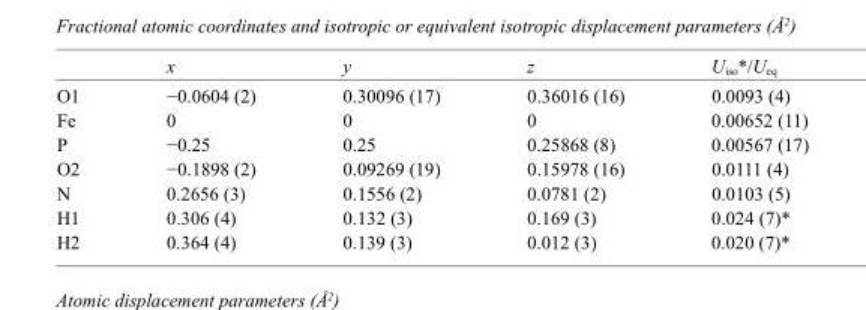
<table><thead><tr><td></td><td>x</td><td>y</td><td>z</td><td>U<sub>iso</sub>*/U<sub>eq</sub></td></tr></thead><tbody><tr><td>O1</td><td>−0.0604 (2)</td><td>0.30096 (17)</td><td>0.36016 (16)</td><td>0.0093 (4)</td></tr><tr><td>Fe</td><td>0</td><td>0</td><td>0</td><td>0.00652 (11)</td></tr><tr><td>P</td><td>−0.25</td><td>0.25</td><td>0.25868 (8)</td><td>0.00567 (17)</td></tr><tr><td>O2</td><td>−0.1898 (2)</td><td>0.09269 (19)</td><td>0.15978 (16)</td><td>0.0111 (4)</td></tr><tr><td>N</td><td>0.2656 (3)</td><td>0.1556 (2)</td><td>0.0781 (2)</td><td>0.0103 (5)</td></tr><tr><td>H1</td><td>0.306 (4)</td><td>0.132 (3)</td><td>0.169 (3)</td><td>0.024 (7)*</td></tr><tr><td>H2</td><td>0.364 (4)</td><td>0.139 (3)</td><td>0.012 (3)</td><td>0.020 (7)*</td></tr></tbody></table>